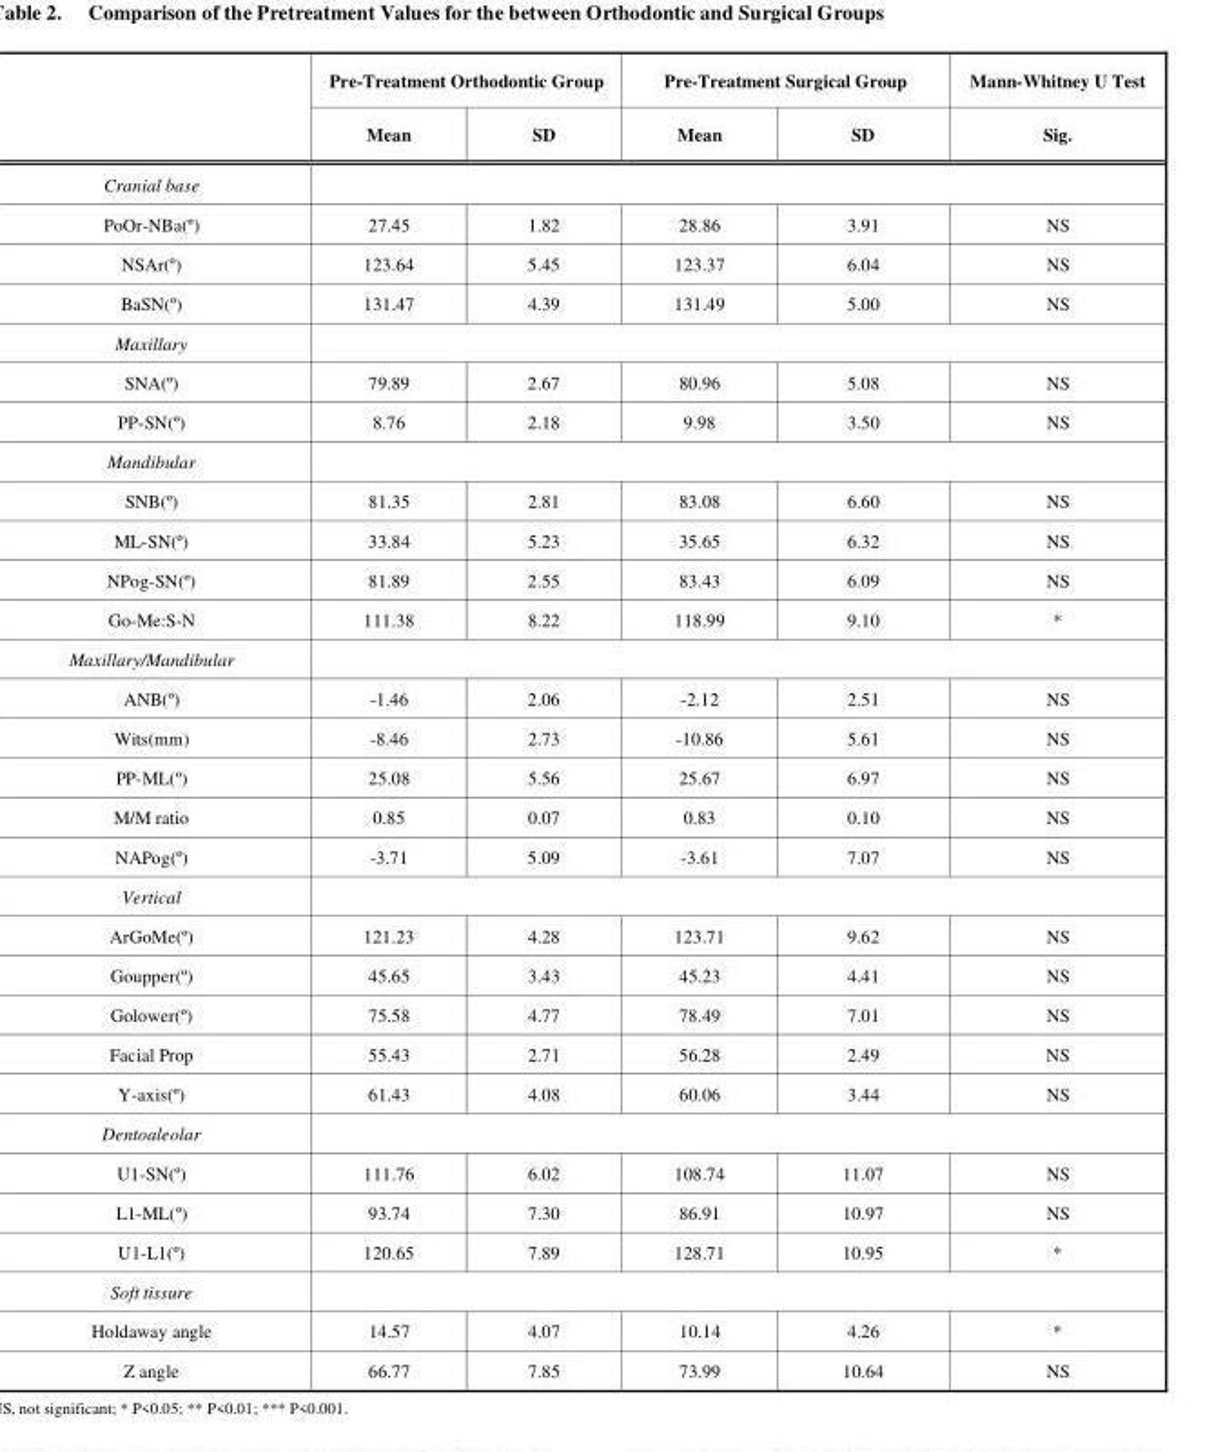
<table><thead><tr><td rowspan="2"></td><td colspan="2">Pre-Treatment Orthodontic Group</td><td colspan="2">Pre-Treatment Surgical Group</td><td rowspan="2">Mann-Whitney U Test Sig.</td></tr><tr><td>Mean</td><td>SD</td><td>Mean</td><td>SD</td></tr></thead><tbody><tr><td colspan="6">Cranial base</td></tr><tr><td>PoOr-NBa(º)</td><td>27.45</td><td>1.82</td><td>28.86</td><td>3.91</td><td>NS</td></tr><tr><td>NSAr(º)</td><td>123.64</td><td>5.45</td><td>123.37</td><td>6.04</td><td>NS</td></tr><tr><td>BaSN(º)</td><td>131.47</td><td>4.39</td><td>131.49</td><td>5.00</td><td>NS</td></tr><tr><td colspan="6">Maxillary</td></tr><tr><td>SNA(º)</td><td>79.89</td><td>2.67</td><td>80.96</td><td>5.08</td><td>NS</td></tr><tr><td>PP-SN(º)</td><td>8.76</td><td>2.18</td><td>9.98</td><td>3.50</td><td>NS</td></tr><tr><td colspan="6">Mandibular</td></tr><tr><td>SNB(º)</td><td>81.35</td><td>2.81</td><td>83.08</td><td>6.60</td><td>NS</td></tr><tr><td>ML-SN(º)</td><td>33.84</td><td>5.23</td><td>35.65</td><td>6.32</td><td>NS</td></tr><tr><td>NPog-SN(º)</td><td>81.89</td><td>2.55</td><td>83.43</td><td>6.09</td><td>NS</td></tr><tr><td>Go-Me:S-N</td><td>111.38</td><td>8.22</td><td>118.99</td><td>9.10</td><td>*</td></tr><tr><td colspan="6">Maxillary/Mandibular</td></tr><tr><td>ANB(º)</td><td>-1.46</td><td>2.06</td><td>-2.12</td><td>2.51</td><td>NS</td></tr><tr><td>Wits(mm)</td><td>-8.46</td><td>2.73</td><td>-10.86</td><td>5.61</td><td>NS</td></tr><tr><td>PP-ML(º)</td><td>25.08</td><td>5.56</td><td>25.67</td><td>6.97</td><td>NS</td></tr><tr><td>M/M ratio</td><td>0.85</td><td>0.07</td><td>0.83</td><td>0.10</td><td>NS</td></tr><tr><td>NAPog(º)</td><td>-3.71</td><td>5.09</td><td>-3.61</td><td>7.07</td><td>NS</td></tr><tr><td colspan="6">Vertical</td></tr><tr><td>ArGoMe(º)</td><td>121.23</td><td>4.28</td><td>123.71</td><td>9.62</td><td>NS</td></tr><tr><td>Goupper(º)</td><td>45.65</td><td>3.43</td><td>45.23</td><td>4.41</td><td>NS</td></tr><tr><td>Golower(º)</td><td>75.58</td><td>4.77</td><td>78.49</td><td>7.01</td><td>NS</td></tr><tr><td>Facial Prop</td><td>55.43</td><td>2.71</td><td>56.28</td><td>2.49</td><td>NS</td></tr><tr><td>Y-axis(º)</td><td>61.43</td><td>4.08</td><td>60.06</td><td>3.44</td><td>NS</td></tr><tr><td colspan="6">Dentoaleolar</td></tr><tr><td>U1-SN(º)</td><td>111.76</td><td>6.02</td><td>108.74</td><td>11.07</td><td>NS</td></tr><tr><td>L1-ML(º)</td><td>93.74</td><td>7.30</td><td>86.91</td><td>10.97</td><td>NS</td></tr><tr><td>U1-L1(º)</td><td>120.65</td><td>7.89</td><td>128.71</td><td>10.95</td><td>*</td></tr><tr><td colspan="6">Soft tissure</td></tr><tr><td>Holdaway angle</td><td>14.57</td><td>4.07</td><td>10.14</td><td>4.26</td><td>*</td></tr><tr><td>Z angle</td><td>66.77</td><td>7.85</td><td>73.99</td><td>10.64</td><td>NS</td></tr></tbody></table>